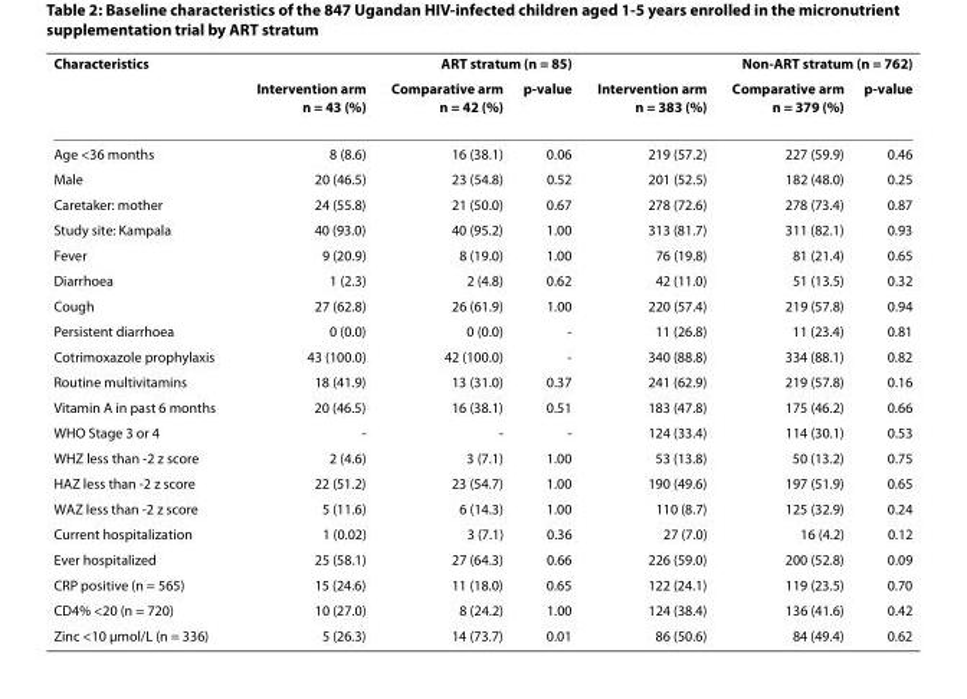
<table><thead><tr><td rowspan="2">Characteristics</td><td colspan="3">ART stratum (n = 85)</td><td colspan="3">Non-ART stratum (n = 762)</td></tr><tr><td>Intervention arm n = 43 (%)</td><td>Comparative arm n = 42 (%)</td><td>p-value</td><td>Intervention arm n = 383 (%)</td><td>Comparative arm n = 379 (%)</td><td>p-value</td></tr></thead><tbody><tr><td>Age &lt;36 months</td><td>8 (8.6)</td><td>16 (38.1)</td><td>0.06</td><td>219 (57.2)</td><td>227 (59.9)</td><td>0.46</td></tr><tr><td>Male</td><td>20 (46.5)</td><td>23 (54.8)</td><td>0.52</td><td>201 (52.5)</td><td>182 (48.0)</td><td>0.25</td></tr><tr><td>Caretaker: mother</td><td>24 (55.8)</td><td>21 (50.0)</td><td>0.67</td><td>278 (72.6)</td><td>278 (73.4)</td><td>0.87</td></tr><tr><td>Study site: Kampala</td><td>40 (93.0)</td><td>40 (95.2)</td><td>1.00</td><td>313 (81.7)</td><td>311 (82.1)</td><td>0.93</td></tr><tr><td>Fever</td><td>9 (20.9)</td><td>8 (19.0)</td><td>1.00</td><td>76 (19.8)</td><td>81 (21.4)</td><td>0.65</td></tr><tr><td>Diarrhoea</td><td>1 (2.3)</td><td>2 (4.8)</td><td>0.62</td><td>42 (11.0)</td><td>51 (13.5)</td><td>0.32</td></tr><tr><td>Cough</td><td>27 (62.8)</td><td>26 (61.9)</td><td>1.00</td><td>220 (57.4)</td><td>219 (57.8)</td><td>0.94</td></tr><tr><td>Persistent diarrhoea</td><td>0 (0.0)</td><td>0 (0.0)</td><td>-</td><td>11 (26.8)</td><td>11 (23.4)</td><td>0.81</td></tr><tr><td>Cotrimoxazole prophylaxis</td><td>43 (100.0)</td><td>42 (100.0)</td><td>-</td><td>340 (88.8)</td><td>334 (88.1)</td><td>0.82</td></tr><tr><td>Routine multivitamins</td><td>18 (41.9)</td><td>13 (31.0)</td><td>0.37</td><td>241 (62.9)</td><td>219 (57.8)</td><td>0.16</td></tr><tr><td>Vitamin A in past 6 months</td><td>20 (46.5)</td><td>16 (38.1)</td><td>0.51</td><td>183 (47.8)</td><td>175 (46.2)</td><td>0.66</td></tr><tr><td>WHO Stage 3 or 4</td><td>-</td><td>-</td><td>-</td><td>124 (33.4)</td><td>114 (30.1)</td><td>0.53</td></tr><tr><td>WHZ less than -2 z score</td><td>2 (4.6)</td><td>3 (7.1)</td><td>1.00</td><td>53 (13.8)</td><td>50 (13.2)</td><td>0.75</td></tr><tr><td>HAZ less than -2 z score</td><td>22 (51.2)</td><td>23 (54.7)</td><td>1.00</td><td>190 (49.6)</td><td>197 (51.9)</td><td>0.65</td></tr><tr><td>WAZ less than -2 z score</td><td>5 (11.6)</td><td>6 (14.3)</td><td>1.00</td><td>110 (8.7)</td><td>125 (32.9)</td><td>0.24</td></tr><tr><td>Current hospitalization</td><td>1 (0.02)</td><td>3 (7.1)</td><td>0.36</td><td>27 (7.0)</td><td>16 (4.2)</td><td>0.12</td></tr><tr><td>Ever hospitalized</td><td>25 (58.1)</td><td>27 (64.3)</td><td>0.66</td><td>226 (59.0)</td><td>200 (52.8)</td><td>0.09</td></tr><tr><td>CRP positive (n = 565)</td><td>15 (24.6)</td><td>11 (18.0)</td><td>0.65</td><td>122 (24.1)</td><td>119 (23.5)</td><td>0.70</td></tr><tr><td>CD4% &lt;20 (n = 720)</td><td>10 (27.0)</td><td>8 (24.2)</td><td>1.00</td><td>124 (38.4)</td><td>136 (41.6)</td><td>0.42</td></tr><tr><td>Zinc &lt;10 μmol/L (n = 336)</td><td>5 (26.3)</td><td>14 (73.7)</td><td>0.01</td><td>86 (50.6)</td><td>84 (49.4)</td><td>0.62</td></tr></tbody></table>